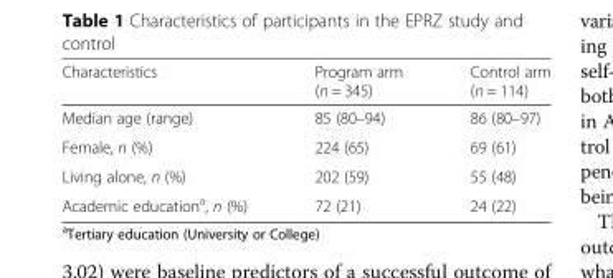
<table><thead><tr><td>Characteristics</td><td>Program arm (n = 345)</td><td>Control arm (n = 114)</td></tr></thead><tbody><tr><td>Median age (range)</td><td>85 (80–94)</td><td>86 (80–97)</td></tr><tr><td>Female, n (%)</td><td>224 (65)</td><td>69 (61)</td></tr><tr><td>Living alone, n (%)</td><td>202 (59)</td><td>55 (48)</td></tr><tr><td>Academic education<sup>a</sup>, n (%)</td><td>72 (21)</td><td>24 (22)</td></tr></tbody></table>